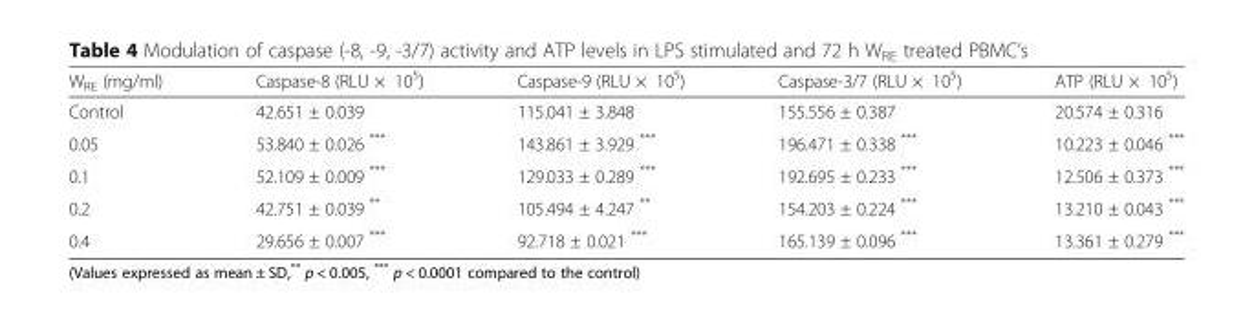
<table><thead><tr><td>W<sub>RE</sub> (mg/ml)</td><td>Caspase-8 (RLU × 10<sup>5</sup>)</td><td>Caspase-9 (RLU × 10<sup>5</sup>)</td><td>Caspase-3/7 (RLU × 10<sup>5</sup>)</td><td>ATP (RLU × 10<sup>5</sup>)</td></tr></thead><tbody><tr><td>Control</td><td>42.651 ± 0.039</td><td>115.041 ± 3.848</td><td>155.556 ± 0.387</td><td>20.574 ± 0.316</td></tr><tr><td>0.05</td><td>53.840 ± 0.026 ***</td><td>143.861 ± 3.929 ***</td><td>196.471 ± 0.338 ***</td><td>10.223 ± 0.046 ***</td></tr><tr><td>0.1</td><td>52.109 ± 0.009 ***</td><td>129.033 ± 0.289 ***</td><td>192.695 ± 0.233 ***</td><td>12.506 ± 0.373 ***</td></tr><tr><td>0.2</td><td>42.751 ± 0.039 **</td><td>105.494 ± 4.247 **</td><td>154.203 ± 0.224 ***</td><td>13.210 ± 0.043 ***</td></tr><tr><td>0.4</td><td>29.656 ± 0.007 ***</td><td>92.718 ± 0.021 ***</td><td>165.139 ± 0.096 ***</td><td>13.361 ± 0.279 ***</td></tr></tbody></table>